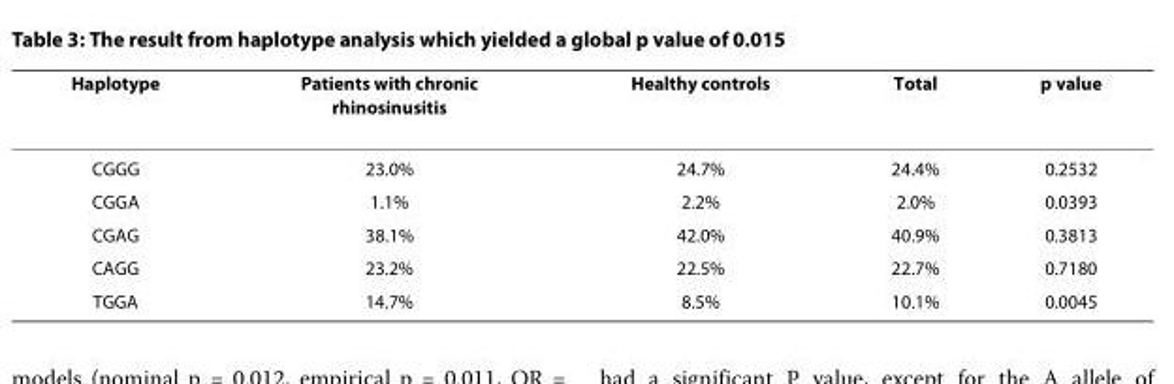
<table><thead><tr><td>Haplotype</td><td>Patients with chronic rhinosinusitis</td><td>Healthy controls</td><td>Total</td><td>p value</td></tr></thead><tbody><tr><td>CGGG</td><td>23.0%</td><td>24.7%</td><td>24.4%</td><td>0.2532</td></tr><tr><td>CGGA</td><td>1.1%</td><td>2.2%</td><td>2.0%</td><td>0.0393</td></tr><tr><td>CGAG</td><td>38.1%</td><td>42.0%</td><td>40.9%</td><td>0.3813</td></tr><tr><td>CAGG</td><td>23.2%</td><td>22.5%</td><td>22.7%</td><td>0.7180</td></tr><tr><td>TGGA</td><td>14.7%</td><td>8.5%</td><td>10.1%</td><td>0.0045</td></tr></tbody></table>